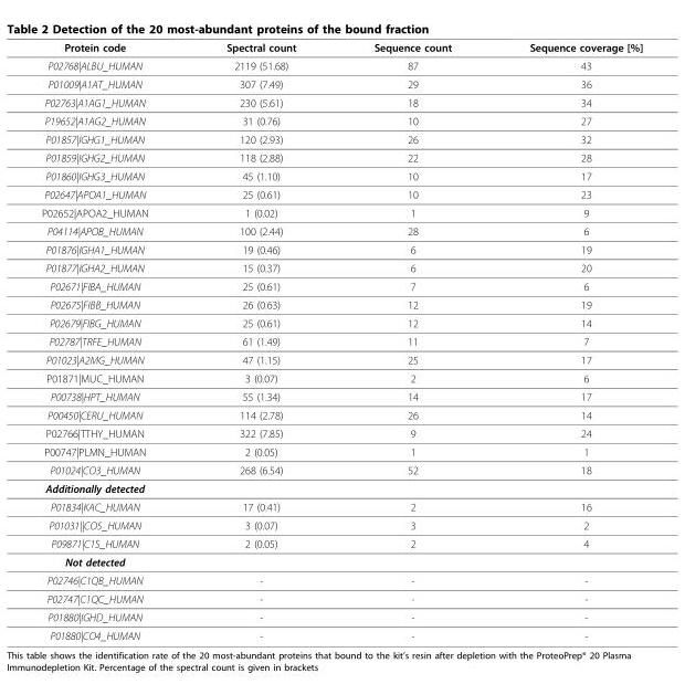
<table><thead><tr><td>Protein code</td><td>Spectral count</td><td>Sequence count</td><td>Sequence coverage [%]</td></tr></thead><tbody><tr><td>P02768|ALBU_HUMAN</td><td>2119 (51.68)</td><td>87</td><td>43</td></tr><tr><td>P01009|A1AT_HUMAN</td><td>307 (7.49)</td><td>29</td><td>36</td></tr><tr><td>P02763|A1AG1_HUMAN</td><td>230 (5.61)</td><td>18</td><td>34</td></tr><tr><td>P19652|A1AG2_HUMAN</td><td>31 (0.76)</td><td>10</td><td>27</td></tr><tr><td>P01857|IGHG1_HUMAN</td><td>120 (2.93)</td><td>26</td><td>32</td></tr><tr><td>P01859|IGHG2_HUMAN</td><td>118 (2.88)</td><td>22</td><td>28</td></tr><tr><td>P01860|IGHG3_HUMAN</td><td>45 (1.10)</td><td>10</td><td>17</td></tr><tr><td>P02647|APOA1_HUMAN</td><td>25 (0.61)</td><td>10</td><td>23</td></tr><tr><td>P02652|APOA2_HUMAN</td><td>1 (0.02)</td><td>1</td><td>9</td></tr><tr><td>P04114|APOB_HUMAN</td><td>100 (2.44)</td><td>28</td><td>6</td></tr><tr><td>P01876|IGHA1_HUMAN</td><td>19 (0.46)</td><td>6</td><td>19</td></tr><tr><td>P01877|IGHA2_HUMAN</td><td>15 (0.37)</td><td>6</td><td>20</td></tr><tr><td>P02671|FIBA_HUMAN</td><td>25 (0.61)</td><td>7</td><td>6</td></tr><tr><td>P02675|FIBB_HUMAN</td><td>26 (0.63)</td><td>12</td><td>19</td></tr><tr><td>P02679|FIBG_HUMAN</td><td>25 (0.61)</td><td>12</td><td>14</td></tr><tr><td>P02787|TRFE_HUMAN</td><td>61 (1.49)</td><td>11</td><td>7</td></tr><tr><td>P01023|A2MG_HUMAN</td><td>47 (1.15)</td><td>25</td><td>17</td></tr><tr><td>P01871|MUC_HUMAN</td><td>3 (0.07)</td><td>2</td><td>6</td></tr><tr><td>P00738|HPT_HUMAN</td><td>55 (1.34)</td><td>14</td><td>17</td></tr><tr><td>P00450|CERU_HUMAN</td><td>114 (2.78)</td><td>26</td><td>14</td></tr><tr><td>P02766|TTHY_HUMAN</td><td>322 (7.85)</td><td>9</td><td>24</td></tr><tr><td>P00747|PLMN_HUMAN</td><td>2 (0.05)</td><td>1</td><td>1</td></tr><tr><td>P01024|CO3_HUMAN</td><td>268 (6.54)</td><td>52</td><td>18</td></tr><tr><td colspan="4">Additionally detected</td></tr><tr><td>P01834|KAC_HUMAN</td><td>17 (0.41)</td><td>2</td><td>16</td></tr><tr><td>P01031||CO5_HUMAN</td><td>3 (0.07)</td><td>3</td><td>2</td></tr><tr><td>P09871|C1S_HUMAN</td><td>2 (0.05)</td><td>2</td><td>4</td></tr><tr><td colspan="4">Not detected</td></tr><tr><td>P02746|C1QB_HUMAN</td><td>-</td><td>-</td><td>-</td></tr><tr><td>P02747|C1QC_HUMAN</td><td>-</td><td>-</td><td>-</td></tr><tr><td>P01880|IGHD_HUMAN</td><td>-</td><td>-</td><td>-</td></tr><tr><td>P01880|CO4_HUMAN</td><td>-</td><td>-</td><td>-</td></tr></tbody></table>